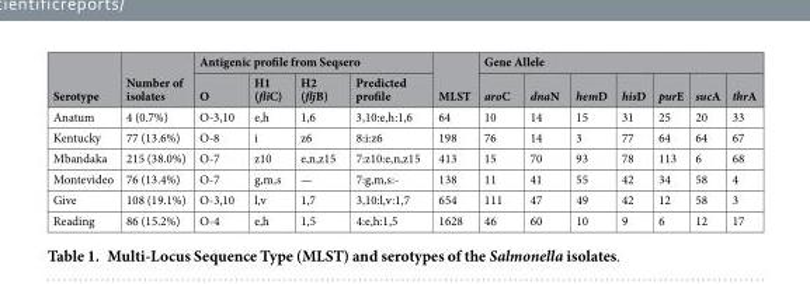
<table><thead><tr><td rowspan="2">Serotype</td><td rowspan="2">Number of isolates</td><td colspan="4">Antigenic profile from Seqsero</td><td rowspan="2">MLST</td><td colspan="7">Gene Allele</td></tr><tr><td>O</td><td>H1 (fliC)</td><td>H2 (fljB)</td><td>Predicted profile</td><td>aroC</td><td>dnaN</td><td>hemD</td><td>hisD</td><td>purE</td><td>sucA</td><td>thrA</td></tr></thead><tbody><tr><td>Anatum</td><td>4 (0.7%)</td><td>O-3,10</td><td>e,h</td><td>1,6</td><td>3,10:e,h:1,6</td><td>64</td><td>10</td><td>14</td><td>15</td><td>31</td><td>25</td><td>20</td><td>33</td></tr><tr><td>Kentucky</td><td>77 (13.6%)</td><td>O-8</td><td>i</td><td>z6</td><td>8:i:z6</td><td>198</td><td>76</td><td>14</td><td>3</td><td>77</td><td>64</td><td>64</td><td>67</td></tr><tr><td>Mbandaka</td><td>215 (38.0%)</td><td>O-7</td><td>z10</td><td>e,n,z15</td><td>7:z10:e,n,z15</td><td>413</td><td>15</td><td>70</td><td>93</td><td>78</td><td>113</td><td>6</td><td>68</td></tr><tr><td>Montevideo</td><td>76 (13.4%)</td><td>O-7</td><td>g,m,s</td><td>—</td><td>7:g,m,s:-</td><td>138</td><td>11</td><td>41</td><td>55</td><td>42</td><td>34</td><td>58</td><td>4</td></tr><tr><td>Give</td><td>108 (19.1%)</td><td>O-3,10</td><td>l,v</td><td>1,7</td><td>3,10:l,v:1,7</td><td>654</td><td>111</td><td>47</td><td>49</td><td>42</td><td>12</td><td>58</td><td>3</td></tr><tr><td>Reading</td><td>86 (15.2%)</td><td>O-4</td><td>e,h</td><td>1,5</td><td>4:e,h:1,5</td><td>1628</td><td>46</td><td>60</td><td>10</td><td>9</td><td>6</td><td>12</td><td>17</td></tr></tbody></table>